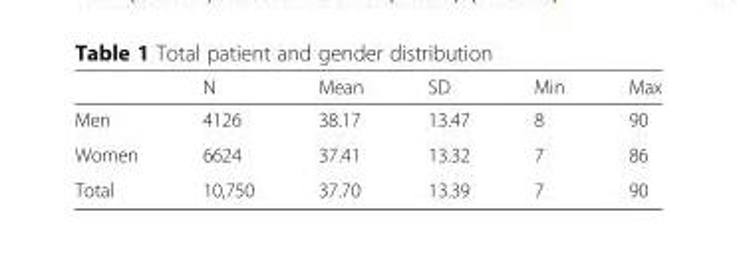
<table><thead><tr><td></td><td>N</td><td>Mean</td><td>SD</td><td>Min</td><td>Max</td></tr></thead><tbody><tr><td>Men</td><td>4126</td><td>38.17</td><td>13.47</td><td>8</td><td>90</td></tr><tr><td>Women</td><td>6624</td><td>37.41</td><td>13.32</td><td>7</td><td>86</td></tr><tr><td>Total</td><td>10,750</td><td>37.70</td><td>13.39</td><td>7</td><td>90</td></tr></tbody></table>